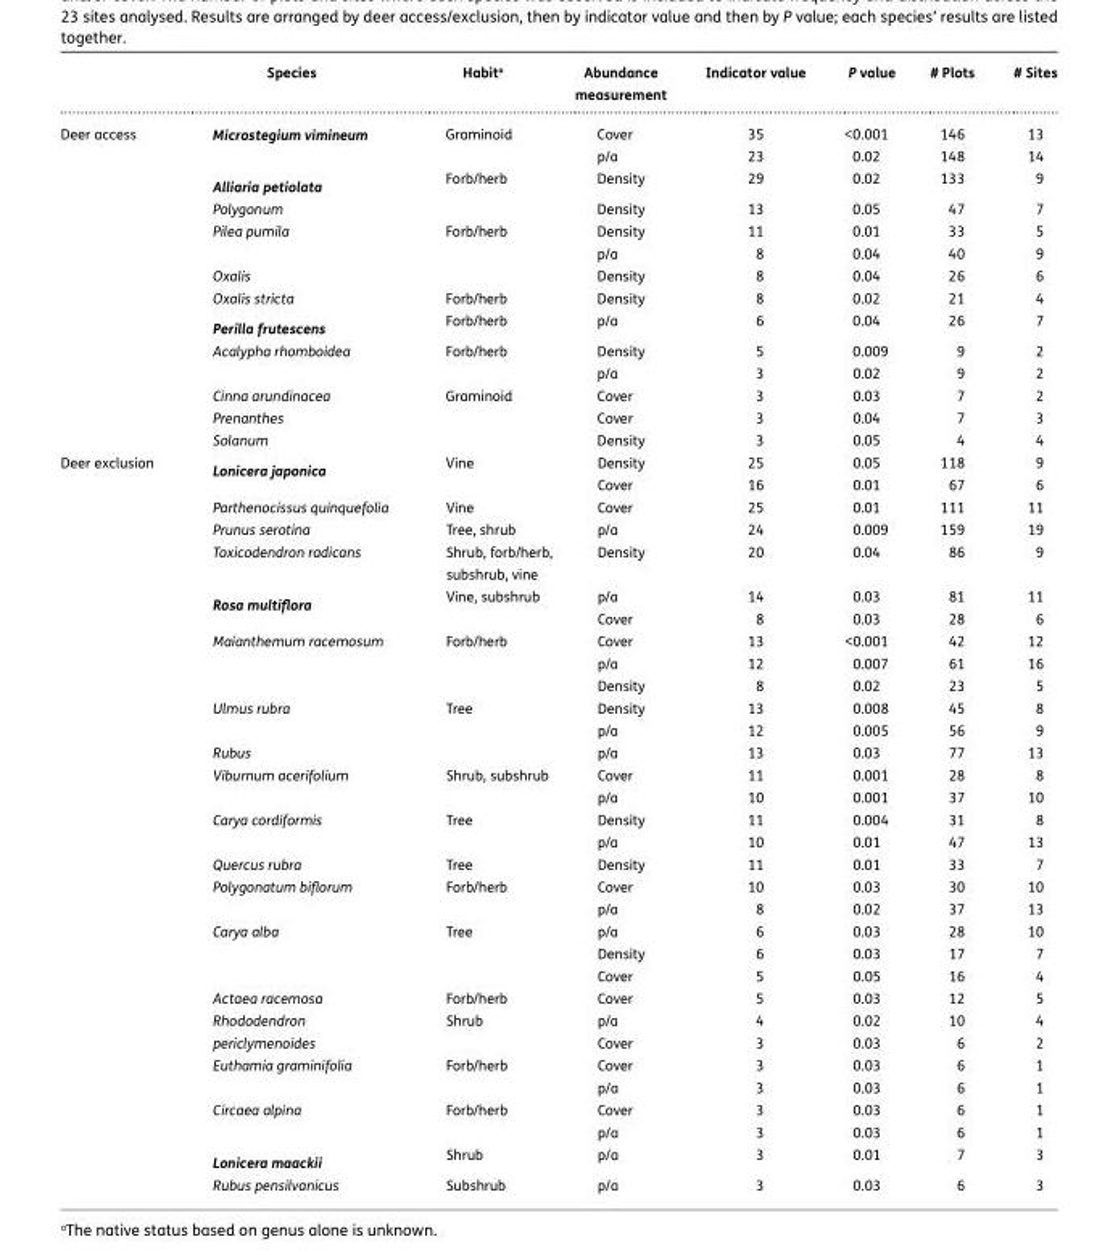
<table><thead><tr><td></td><td>Species</td><td>Habit<sup>a</sup></td><td>Abundance measurement</td><td>Indicator value</td><td>P value</td><td># Plots</td><td># Sites</td></tr></thead><tbody><tr><td rowspan="14">Deer access</td><td rowspan="2">Microstegium vimineum</td><td rowspan="2">Graminoid</td><td>Cover</td><td>35</td><td>&lt;0.001</td><td>146</td><td>13</td></tr><tr><td>p/a</td><td>23</td><td>0.02</td><td>148</td><td>14</td></tr><tr><td>Alliaria petiolata</td><td>Forb/herb</td><td>Density</td><td>29</td><td>0.02</td><td>133</td><td>9</td></tr><tr><td>Polygonum</td><td></td><td>Density</td><td>13</td><td>0.05</td><td>47</td><td>7</td></tr><tr><td rowspan="2">Pilea pumila</td><td rowspan="2">Forb/herb</td><td>Density</td><td>11</td><td>0.01</td><td>33</td><td>5</td></tr><tr><td>p/a</td><td>8</td><td>0.04</td><td>40</td><td>9</td></tr><tr><td>Oxalis</td><td></td><td>Density</td><td>8</td><td>0.04</td><td>26</td><td>6</td></tr><tr><td>Oxalis stricta</td><td>Forb/herb</td><td>Density</td><td>8</td><td>0.02</td><td>21</td><td>4</td></tr><tr><td>Perilla frutescens</td><td>Forb/herb</td><td>p/a</td><td>6</td><td>0.04</td><td>26</td><td>7</td></tr><tr><td rowspan="2">Acalypha rhomboidea</td><td rowspan="2">Forb/herb</td><td>Density</td><td>5</td><td>0.009</td><td>9</td><td>2</td></tr><tr><td>p/a</td><td>3</td><td>0.02</td><td>9</td><td>2</td></tr><tr><td>Cinna arundinacea</td><td>Graminoid</td><td>Cover</td><td>3</td><td>0.03</td><td>7</td><td>2</td></tr><tr><td>Prenanthes</td><td></td><td>Cover</td><td>3</td><td>0.04</td><td>7</td><td>3</td></tr><tr><td>Solanum</td><td></td><td>Density</td><td>3</td><td>0.05</td><td>4</td><td>4</td></tr><tr><td rowspan="32">Deer exclusion</td><td rowspan="2">Lonicera japonica</td><td rowspan="2">Vine</td><td>Density</td><td>25</td><td>0.05</td><td>118</td><td>9</td></tr><tr><td>Cover</td><td>16</td><td>0.01</td><td>67</td><td>6</td></tr><tr><td>Parthenocissus quinquefolia</td><td>Vine</td><td>Cover</td><td>25</td><td>0.01</td><td>111</td><td>11</td></tr><tr><td>Prunus serotina</td><td>Tree, shrub</td><td>p/a</td><td>24</td><td>0.009</td><td>159</td><td>19</td></tr><tr><td>Toxicodendron radicans</td><td>Shrub, forb/herb, subshrub, vine</td><td>Density</td><td>20</td><td>0.04</td><td>86</td><td>9</td></tr><tr><td rowspan="2">Rosa multiflora</td><td rowspan="2">Vine, subshrub</td><td>p/a</td><td>14</td><td>0.03</td><td>81</td><td>11</td></tr><tr><td>Cover</td><td>8</td><td>0.03</td><td>28</td><td>6</td></tr><tr><td rowspan="3">Maianthemum racemosum</td><td rowspan="3">Forb/herb</td><td>Cover</td><td>13</td><td>&lt;0.001</td><td>42</td><td>12</td></tr><tr><td>p/a</td><td>12</td><td>0.007</td><td>61</td><td>16</td></tr><tr><td>Density</td><td>8</td><td>0.02</td><td>23</td><td>5</td></tr><tr><td rowspan="2">Ulmus rubra</td><td rowspan="2">Tree</td><td>Density</td><td>13</td><td>0.008</td><td>45</td><td>8</td></tr><tr><td>p/a</td><td>12</td><td>0.005</td><td>56</td><td>9</td></tr><tr><td>Rubus</td><td></td><td>p/a</td><td>13</td><td>0.03</td><td>77</td><td>13</td></tr><tr><td rowspan="2">Viburnum acerifolium</td><td rowspan="2">Shrub, subshrub</td><td>Cover</td><td>11</td><td>0.001</td><td>28</td><td>8</td></tr><tr><td>p/a</td><td>10</td><td>0.001</td><td>37</td><td>10</td></tr><tr><td rowspan="2">Carya cordiformis</td><td rowspan="2">Tree</td><td>Density</td><td>11</td><td>0.004</td><td>31</td><td>8</td></tr><tr><td>p/a</td><td>10</td><td>0.01</td><td>47</td><td>13</td></tr><tr><td>Quercus rubra</td><td>Tree</td><td>Density</td><td>11</td><td>0.01</td><td>33</td><td>7</td></tr><tr><td rowspan="2">Polygonatum biflorum</td><td rowspan="2">Forb/herb</td><td>Cover</td><td>10</td><td>0.03</td><td>30</td><td>10</td></tr><tr><td>p/a</td><td>8</td><td>0.02</td><td>37</td><td>13</td></tr><tr><td rowspan="3">Carya alba</td><td rowspan="3">Tree</td><td>p/a</td><td>6</td><td>0.03</td><td>28</td><td>10</td></tr><tr><td>Density</td><td>6</td><td>0.03</td><td>17</td><td>7</td></tr><tr><td>Cover</td><td>5</td><td>0.05</td><td>16</td><td>4</td></tr><tr><td>Actaea racemosa</td><td>Forb/herb</td><td>Cover</td><td>5</td><td>0.03</td><td>12</td><td>5</td></tr><tr><td rowspan="2">Rhododendron periclymenoides</td><td rowspan="2">Shrub</td><td>p/a</td><td>4</td><td>0.02</td><td>10</td><td>4</td></tr><tr><td>Cover</td><td>3</td><td>0.03</td><td>6</td><td>2</td></tr><tr><td rowspan="2">Euthamia graminifolia</td><td rowspan="2">Forb/herb</td><td>Cover</td><td>3</td><td>0.03</td><td>6</td><td>1</td></tr><tr><td>p/a</td><td>3</td><td>0.03</td><td>6</td><td>1</td></tr><tr><td rowspan="2">Circaea alpina</td><td rowspan="2">Forb/herb</td><td>Cover</td><td>3</td><td>0.03</td><td>6</td><td>1</td></tr><tr><td>p/a</td><td>3</td><td>0.03</td><td>6</td><td>1</td></tr><tr><td>Lonicera maackii</td><td>Shrub</td><td>p/a</td><td>3</td><td>0.01</td><td>7</td><td>3</td></tr><tr><td>Rubus pensilvanicus</td><td>Subshrub</td><td>p/a</td><td>3</td><td>0.03</td><td>6</td><td>3</td></tr></tbody></table>